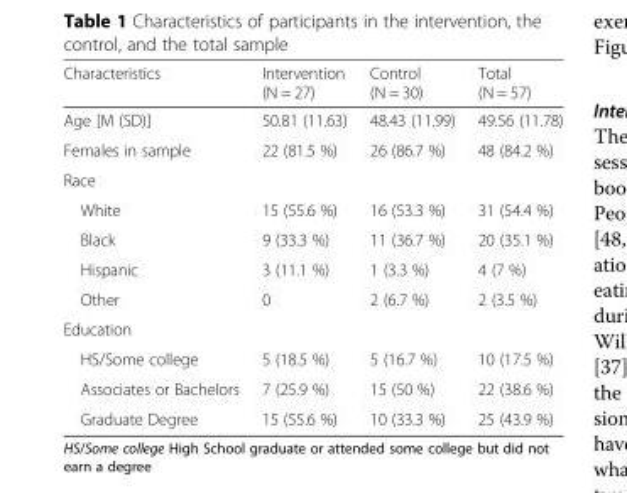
<table><thead><tr><td>Characteristics</td><td>Intervention (N = 27)</td><td>Control (N = 30)</td><td>Total (N = 57)</td></tr></thead><tbody><tr><td>Age [M (SD)]</td><td>50.81 (11.63)</td><td>48.43 (11.99)</td><td>49.56 (11.78)</td></tr><tr><td>Females in sample</td><td>22 (81.5 %)</td><td>26 (86.7 %)</td><td>48 (84.2 %)</td></tr><tr><td colspan="4">Race</td></tr><tr><td>White</td><td>15 (55.6 %)</td><td>16 (53.3 %)</td><td>31 (54.4 %)</td></tr><tr><td>Black</td><td>9 (33.3 %)</td><td>11 (36.7 %)</td><td>20 (35.1 %)</td></tr><tr><td>Hispanic</td><td>3 (11.1 %)</td><td>1 (3.3 %)</td><td>4 (7 %)</td></tr><tr><td>Other</td><td>0</td><td>2 (6.7 %)</td><td>2 (3.5 %)</td></tr><tr><td colspan="4">Education</td></tr><tr><td>HS/Some college</td><td>5 (18.5 %)</td><td>5 (16.7 %)</td><td>10 (17.5 %)</td></tr><tr><td>Associates or Bachelors</td><td>7 (25.9 %)</td><td>15 (50 %)</td><td>22 (38.6 %)</td></tr><tr><td>Graduate Degree</td><td>15 (55.6 %)</td><td>10 (33.3 %)</td><td>25 (43.9 %)</td></tr></tbody></table>